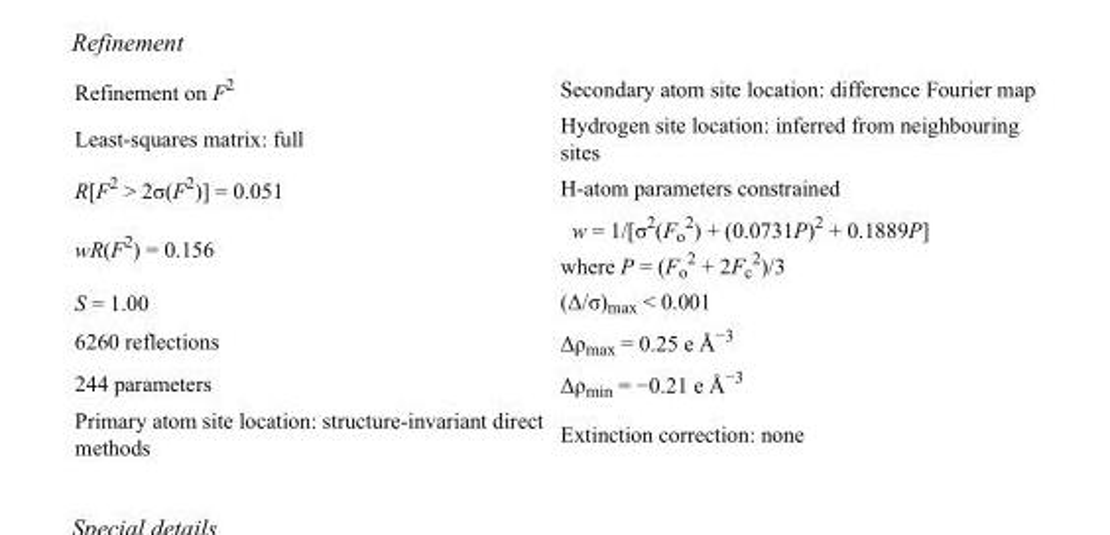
<table><tbody><tr><td>Refinement on F<sup>2</sup></td><td>Secondary atom site location: difference Fourier map</td></tr><tr><td>Least-squares matrix: full</td><td>Hydrogen site location: inferred from neighbouring sites</td></tr><tr><td>R[F<sup>2</sup> &gt; 2σ(F<sup>2</sup>)] = 0.051</td><td>H-atom parameters constrained</td></tr><tr><td>wR(F<sup>2</sup>) = 0.156</td><td>w = 1/[σ<sup>2</sup>(F<sub>o</sub> <sup>2</sup>) + (0.0731P)<sup>2</sup> + 0.1889P] where P = (F<sub>o</sub> <sup>2</sup> + 2F<sub>c</sub> <sup>2</sup>)/3</td></tr><tr><td>S = 1.00</td><td>(Δ/σ)<sub>max</sub> &lt; 0.001</td></tr><tr><td>6260 reflections</td><td>Δρ<sub>max</sub> = 0.25 e Å<sup>−3</sup></td></tr><tr><td>244 parameters</td><td>Δρ<sub>min</sub> = −0.21 e Å<sup>−3</sup></td></tr><tr><td>Primary atom site location: structure-invariant direct methods</td><td>Extinction correction: none</td></tr></tbody></table>